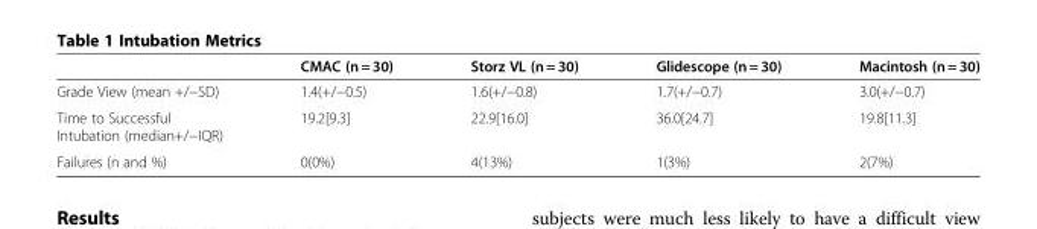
<table><thead><tr><td></td><td>CMAC (n = 30)</td><td>Storz VL (n = 30)</td><td>Glidescope (n = 30)</td><td>Macintosh (n = 30)</td></tr></thead><tbody><tr><td>Grade View (mean +/−SD)</td><td>1.4(+/−0.5)</td><td>1.6(+/−0.8)</td><td>1.7(+/−0.7)</td><td>3.0(+/−0.7)</td></tr><tr><td>Time to Successful Intubation (median+/−IQR)</td><td>19.2[9.3]</td><td>22.9[16.0]</td><td>36.0[24.7]</td><td>19.8[11.3]</td></tr><tr><td>Failures (n and %)</td><td>0(0%)</td><td>4(13%)</td><td>1(3%)</td><td>2(7%)</td></tr></tbody></table>